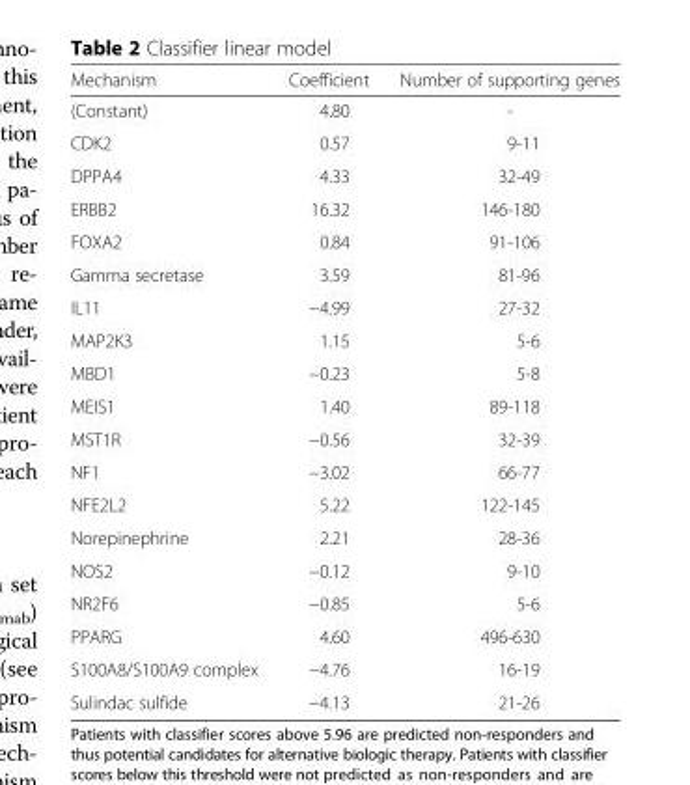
<table><thead><tr><td>Mechanism</td><td>Coefficient</td><td>Number of supporting genes</td></tr></thead><tbody><tr><td>(Constant)</td><td>4.80</td><td>-</td></tr><tr><td>CDK2</td><td>0.57</td><td>9-11</td></tr><tr><td>DPPA4</td><td>4.33</td><td>32-49</td></tr><tr><td>ERBB2</td><td>16.32</td><td>146-180</td></tr><tr><td>FOXA2</td><td>0.84</td><td>91-106</td></tr><tr><td>Gamma secretase</td><td>3.59</td><td>81-96</td></tr><tr><td>IL11</td><td>−4.99</td><td>27-32</td></tr><tr><td>MAP2K3</td><td>1.15</td><td>5-6</td></tr><tr><td>MBD1</td><td>−0.23</td><td>5-8</td></tr><tr><td>MEIS1</td><td>1.40</td><td>89-118</td></tr><tr><td>MST1R</td><td>−0.56</td><td>32-39</td></tr><tr><td>NF1</td><td>−3.02</td><td>66-77</td></tr><tr><td>NFE2L2</td><td>5.22</td><td>122-145</td></tr><tr><td>Norepinephrine</td><td>2.21</td><td>28-36</td></tr><tr><td>NOS2</td><td>−0.12</td><td>9-10</td></tr><tr><td>NR2F6</td><td>−0.85</td><td>5-6</td></tr><tr><td>PPARG</td><td>4.60</td><td>496-630</td></tr><tr><td>S100A8/S100A9 complex</td><td>−4.76</td><td>16-19</td></tr><tr><td>Sulindac sulfide</td><td>−4.13</td><td>21-26</td></tr></tbody></table>